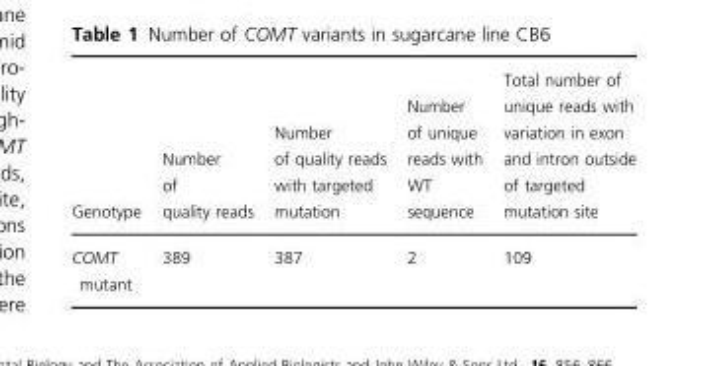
<table><thead><tr><td>Genotype</td><td>Number of quality reads</td><td>Number of quality reads with targeted mutation</td><td>Number of unique reads with WT sequence</td><td>Total number of unique reads with variation in exon and intron outside of targeted mutation site</td></tr></thead><tbody><tr><td>COMT mutant</td><td>389</td><td>387</td><td>2</td><td>109</td></tr></tbody></table>